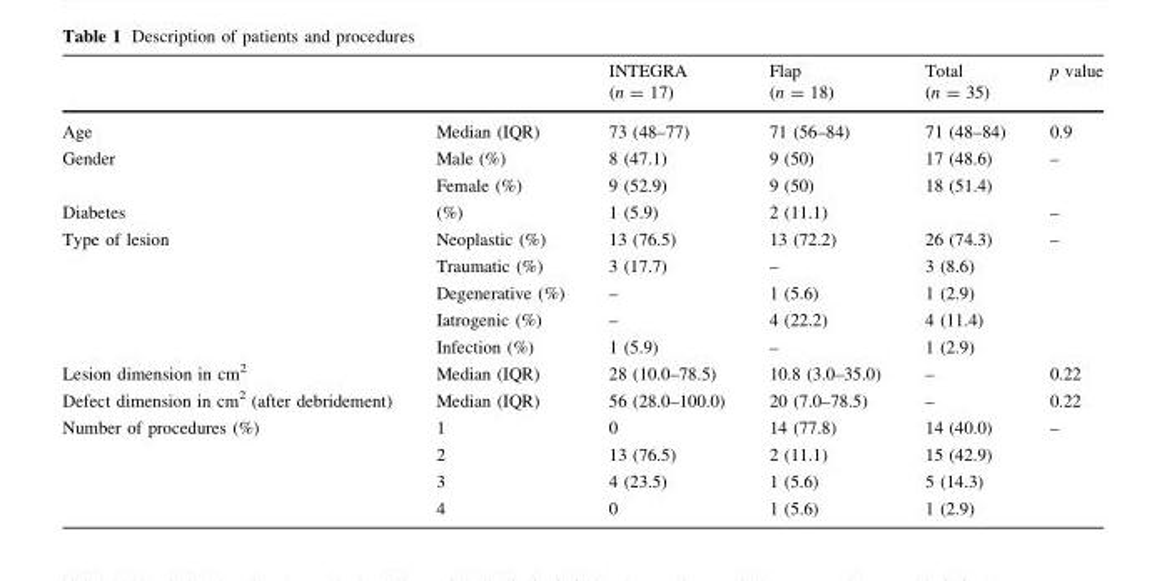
<table><thead><tr><td></td><td></td><td>INTEGRA (n = 17)</td><td>Flap (n = 18)</td><td>Total (n = 35)</td><td>p value</td></tr></thead><tbody><tr><td>Age</td><td>Median (IQR)</td><td>73 (48–77)</td><td>71 (56–84)</td><td>71 (48–84)</td><td>0.9</td></tr><tr><td rowspan="2">Gender</td><td>Male (%)</td><td>8 (47.1)</td><td>9 (50)</td><td>17 (48.6)</td><td>–</td></tr><tr><td>Female (%)</td><td>9 (52.9)</td><td>9 (50)</td><td>18 (51.4)</td><td></td></tr><tr><td>Diabetes</td><td>(%)</td><td>1 (5.9)</td><td>2 (11.1)</td><td></td><td>–</td></tr><tr><td rowspan="5">Type of lesion</td><td>Neoplastic (%)</td><td>13 (76.5)</td><td>13 (72.2)</td><td>26 (74.3)</td><td>–</td></tr><tr><td>Traumatic (%)</td><td>3 (17.7)</td><td>–</td><td>3 (8.6)</td><td></td></tr><tr><td>Degenerative (%)</td><td>–</td><td>1 (5.6)</td><td>1 (2.9)</td><td></td></tr><tr><td>Iatrogenic (%)</td><td>–</td><td>4 (22.2)</td><td>4 (11.4)</td><td></td></tr><tr><td>Infection (%)</td><td>1 (5.9)</td><td>–</td><td>1 (2.9)</td><td></td></tr><tr><td>Lesion dimension in cm<sup>2</sup></td><td>Median (IQR)</td><td>28 (10.0–78.5)</td><td>10.8 (3.0–35.0)</td><td>–</td><td>0.22</td></tr><tr><td>Defect dimension in cm<sup>2</sup> (after debridement)</td><td>Median (IQR)</td><td>56 (28.0–100.0)</td><td>20 (7.0–78.5)</td><td>–</td><td>0.22</td></tr><tr><td rowspan="4">Number of procedures (%)</td><td>1</td><td>0</td><td>14 (77.8)</td><td>14 (40.0)</td><td>–</td></tr><tr><td>2</td><td>13 (76.5)</td><td>2 (11.1)</td><td>15 (42.9)</td><td></td></tr><tr><td>3</td><td>4 (23.5)</td><td>1 (5.6)</td><td>5 (14.3)</td><td></td></tr><tr><td>4</td><td>0</td><td>1 (5.6)</td><td>1 (2.9)</td><td></td></tr></tbody></table>